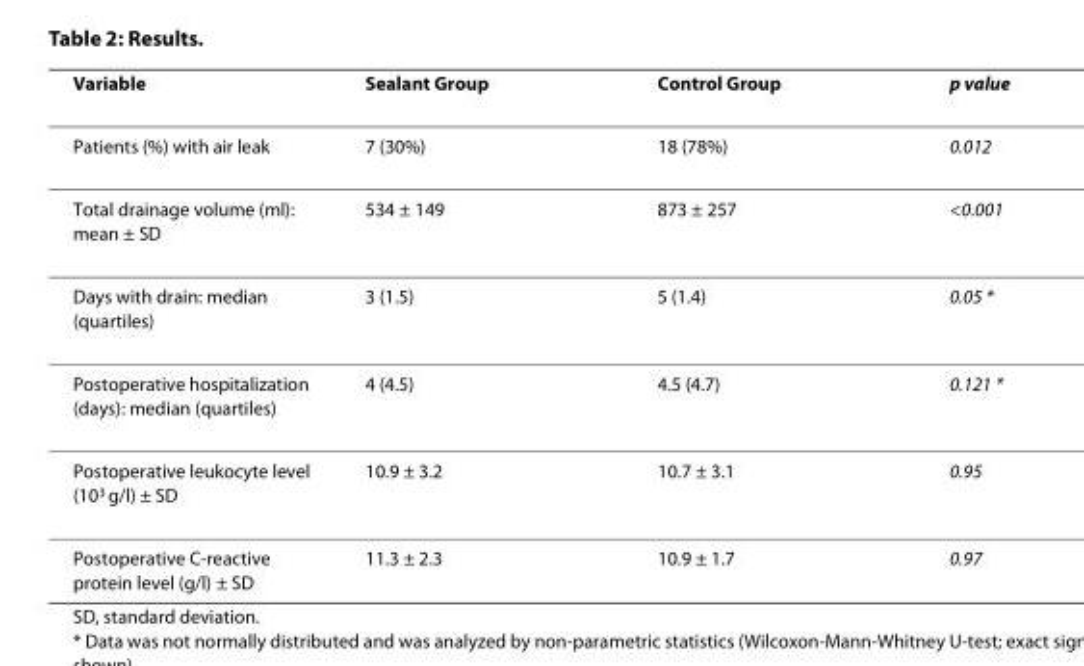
<table><thead><tr><td>Variable</td><td>Sealant Group</td><td>Control Group</td><td>p value</td></tr></thead><tbody><tr><td>Patients (%) with air leak</td><td>7 (30%)</td><td>18 (78%)</td><td>0.012</td></tr><tr><td>Total drainage volume (ml): mean ± SD</td><td>534 ± 149</td><td>873 ± 257</td><td>&lt;0.001</td></tr><tr><td>Days with drain: median (quartiles)</td><td>3 (1.5)</td><td>5 (1.4)</td><td>0.05 *</td></tr><tr><td>Postoperative hospitalization (days): median (quartiles)</td><td>4 (4.5)</td><td>4.5 (4.7)</td><td>0.121 *</td></tr><tr><td>Postoperative leukocyte level (10<sup>3</sup> g/l) ± SD</td><td>10.9 ± 3.2</td><td>10.7 ± 3.1</td><td>0.95</td></tr><tr><td>Postoperative C-reactive protein level (g/l) ± SD</td><td>11.3 ± 2.3</td><td>10.9 ± 1.7</td><td>0.97</td></tr></tbody></table>